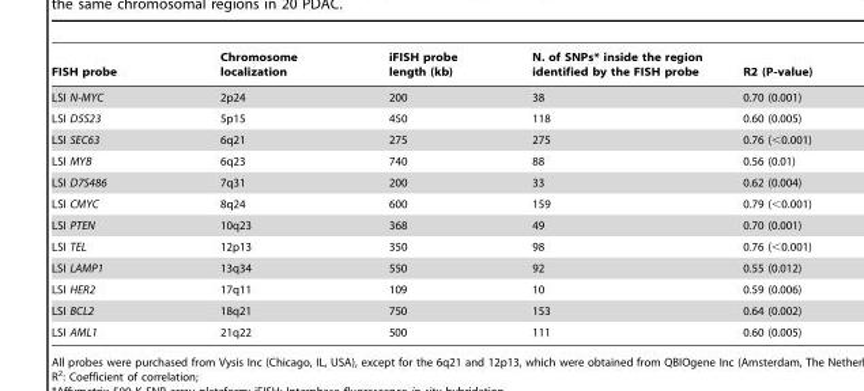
<table><thead><tr><td>FISH probe</td><td>Chromosome localization</td><td>iFISH probe length (kb)</td><td>N. of SNPs* inside the region identified by the FISH probe</td><td>R2 (P-value)</td></tr></thead><tbody><tr><td>LSI N-MYC</td><td>2p24</td><td>200</td><td>38</td><td>0.70 (0.001)</td></tr><tr><td>LSI D5S23</td><td>5p15</td><td>450</td><td>118</td><td>0.60 (0.005)</td></tr><tr><td>LSI SEC63</td><td>6q21</td><td>275</td><td>275</td><td>0.76 (&lt;0.001)</td></tr><tr><td>LSI MYB</td><td>6q23</td><td>740</td><td>88</td><td>0.56 (0.01)</td></tr><tr><td>LSI D7S486</td><td>7q31</td><td>200</td><td>33</td><td>0.62 (0.004)</td></tr><tr><td>LSI CMYC</td><td>8q24</td><td>600</td><td>159</td><td>0.79 (&lt;0.001)</td></tr><tr><td>LSI PTEN</td><td>10q23</td><td>368</td><td>49</td><td>0.70 (0.001)</td></tr><tr><td>LSI TEL</td><td>12p13</td><td>350</td><td>98</td><td>0.76 (&lt;0.001)</td></tr><tr><td>LSI LAMP1</td><td>13q34</td><td>550</td><td>92</td><td>0.55 (0.012)</td></tr><tr><td>LSI HER2</td><td>17q11</td><td>109</td><td>10</td><td>0.59 (0.006)</td></tr><tr><td>LSI BCL2</td><td>18q21</td><td>750</td><td>153</td><td>0.64 (0.002)</td></tr><tr><td>LSI AML1</td><td>21q22</td><td>500</td><td>111</td><td>0.60 (0.005)</td></tr></tbody></table>